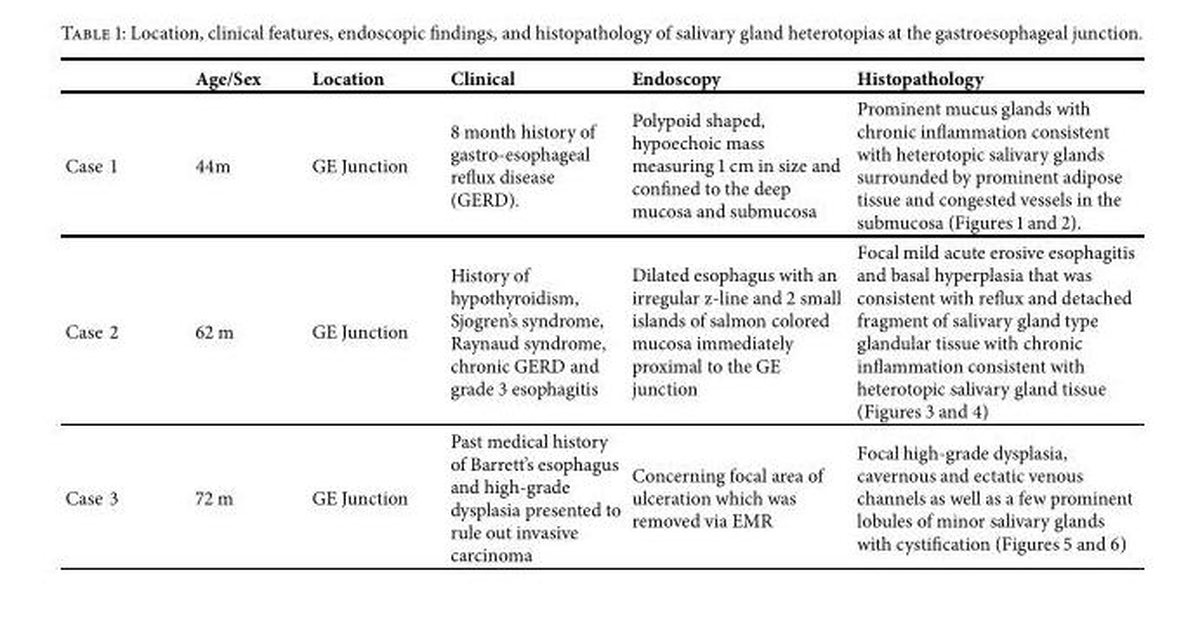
<table><thead><tr><td></td><td>Age/Sex</td><td>Location</td><td>Clinical</td><td>Endoscopy</td><td>Histopathology</td></tr></thead><tbody><tr><td>Case 1</td><td>44m</td><td>GE Junction</td><td>8 month history of gastro-esophageal reflux disease (GERD).</td><td>Polypoid shaped, hypoechoic mass measuring 1 cm in size and confined to the deep mucosa and submucosa</td><td>Prominent mucus glands with chronic inflammation consistent with heterotopic salivary glands surrounded by prominent adipose tissue and congested vessels in the submucosa (Figures 1 and 2).</td></tr><tr><td>Case 2</td><td>62 m</td><td>GE Junction</td><td>History of hypothyroidism, Sjogren’s syndrome, Raynaud syndrome, chronic GERD and grade 3 esophagitis</td><td>Dilated esophagus with an irregular z-line and 2 small islands of salmon colored mucosa immediately proximal to the GE junction</td><td>Focal mild acute erosive esophagitis and basal hyperplasia that was consistent with reflux and detached fragment of salivary gland type glandular tissue with chronic inflammation consistent with heterotopic salivary gland tissue (Figures 3 and 4)</td></tr><tr><td>Case 3</td><td>72 m</td><td>GE Junction</td><td>Past medical history of Barrett’s esophagus and high-grade dysplasia presented to rule out invasive carcinoma</td><td>Concerning focal area of ulceration which was removed via EMR</td><td>Focal high-grade dysplasia, cavernous and ectatic venous channels as well as a few prominent lobules of minor salivary glands with cystification (Figures 5 and 6)</td></tr></tbody></table>